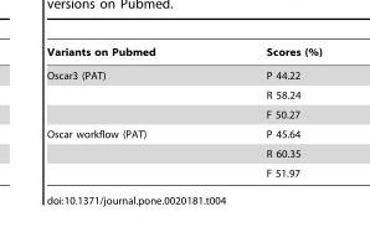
<table><thead><tr><td>Variants on Pubmed</td><td>Scores (%)</td></tr></thead><tbody><tr><td rowspan="3">Oscar3 (PAT)</td><td>P 44.22</td></tr><tr><td>R 58.24</td></tr><tr><td>F 50.27</td></tr><tr><td rowspan="3">Oscar workflow (PAT)</td><td>P 45.64</td></tr><tr><td>R 60.35</td></tr><tr><td>F 51.97</td></tr></tbody></table>